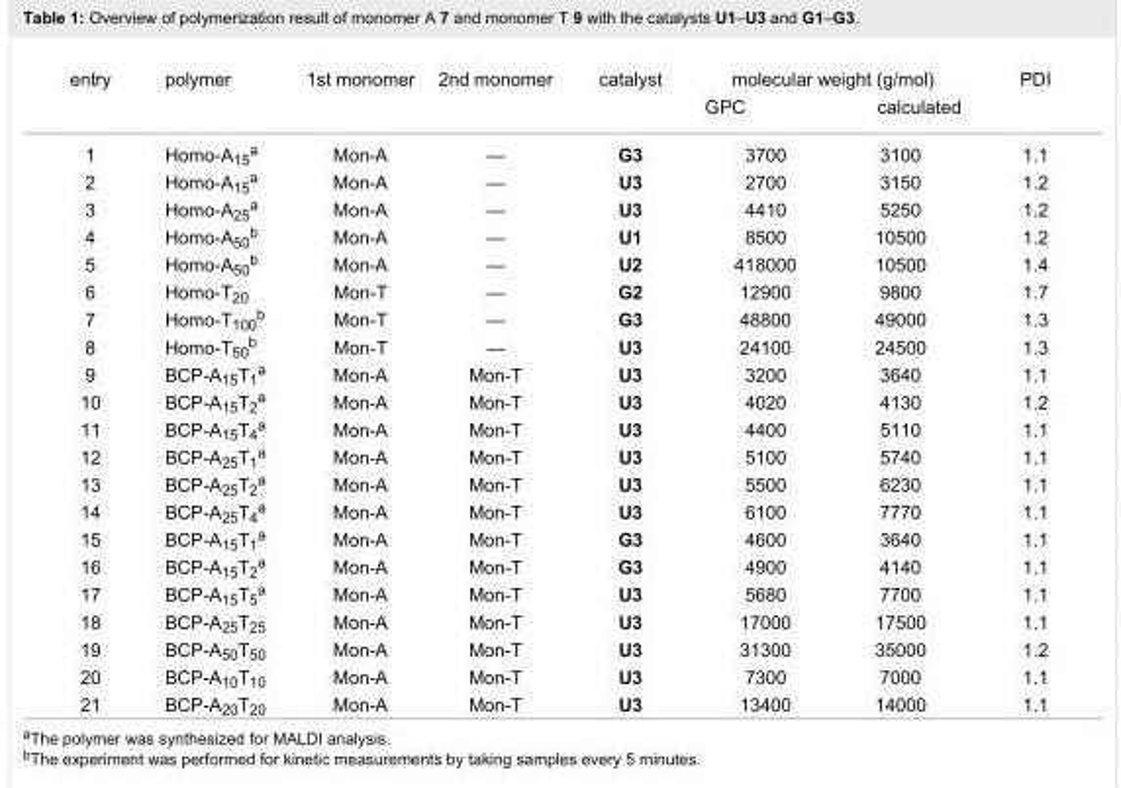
<table><tbody><tr><td rowspan="2">entry</td><td>polymer</td><td>1st monomer</td><td>2nd monomer</td><td>catalyst</td><td colspan="2">molecular weight (g/mol)</td><td>PDI</td></tr><tr><td></td><td></td><td></td><td></td><td>GPC</td><td>calculated</td><td></td></tr><tr><td>1</td><td>Homo-A<sub>15</sub><sup>a</sup></td><td>Mon-A</td><td>—</td><td>G3</td><td>3700</td><td>3100</td><td>1.1</td></tr><tr><td>2</td><td>Homo-A<sub>15</sub><sup>a</sup></td><td>Mon-A</td><td>—</td><td>U3</td><td>2700</td><td>3150</td><td>1.2</td></tr><tr><td>3</td><td>Homo-A<sub>25</sub><sup>a</sup></td><td>Mon-A</td><td>—</td><td>U3</td><td>4410</td><td>5250</td><td>1.2</td></tr><tr><td>4</td><td>Homo-A<sub>50</sub><sup>b</sup></td><td>Mon-A</td><td>—</td><td>U1</td><td>8500</td><td>10500</td><td>1.2</td></tr><tr><td>5</td><td>Homo-A<sub>50</sub><sup>b</sup></td><td>Mon-A</td><td>—</td><td>U2</td><td>418000</td><td>10500</td><td>1.4</td></tr><tr><td>6</td><td>Homo-T<sub>20</sub></td><td>Mon-T</td><td>—</td><td>G2</td><td>12900</td><td>9800</td><td>1.7</td></tr><tr><td>7</td><td>Homo-T<sub>100</sub><sup>b</sup></td><td>Mon-T</td><td>—</td><td>G3</td><td>48800</td><td>49000</td><td>1.3</td></tr><tr><td>8</td><td>Homo-T<sub>50</sub><sup>b</sup></td><td>Mon-T</td><td>—</td><td>U3</td><td>24100</td><td>24500</td><td>1.3</td></tr><tr><td>9</td><td>BCP-A<sub>15</sub>T<sub>1</sub><sup>a</sup></td><td>Mon-A</td><td>Mon-T</td><td>U3</td><td>3200</td><td>3640</td><td>1.1</td></tr><tr><td>10</td><td>BCP-A<sub>15</sub>T<sub>2</sub><sup>a</sup></td><td>Mon-A</td><td>Mon-T</td><td>U3</td><td>4020</td><td>4130</td><td>1.2</td></tr><tr><td>11</td><td>BCP-A<sub>15</sub>T<sub>4</sub><sup>a</sup></td><td>Mon-A</td><td>Mon-T</td><td>U3</td><td>4400</td><td>5110</td><td>1.1</td></tr><tr><td>12</td><td>BCP-A<sub>25</sub>T<sub>1</sub><sup>a</sup></td><td>Mon-A</td><td>Mon-T</td><td>U3</td><td>5100</td><td>5740</td><td>1.1</td></tr><tr><td>13</td><td>BCP-A<sub>25</sub>T<sub>2</sub><sup>a</sup></td><td>Mon-A</td><td>Mon-T</td><td>U3</td><td>5500</td><td>6230</td><td>1.1</td></tr><tr><td>14</td><td>BCP-A<sub>25</sub>T<sub>4</sub><sup>a</sup></td><td>Mon-A</td><td>Mon-T</td><td>U3</td><td>6100</td><td>7770</td><td>1.1</td></tr><tr><td>15</td><td>BCP-A<sub>15</sub>T<sub>1</sub><sup>a</sup></td><td>Mon-A</td><td>Mon-T</td><td>G3</td><td>4600</td><td>3640</td><td>1.1</td></tr><tr><td>16</td><td>BCP-A<sub>15</sub>T<sub>2</sub><sup>a</sup></td><td>Mon-A</td><td>Mon-T</td><td>G3</td><td>4900</td><td>4140</td><td>1.1</td></tr><tr><td>17</td><td>BCP-A<sub>15</sub>T<sub>5</sub><sup>a</sup></td><td>Mon-A</td><td>Mon-T</td><td>U3</td><td>5680</td><td>7700</td><td>1.1</td></tr><tr><td>18</td><td>BCP-A<sub>25</sub>T<sub>25</sub></td><td>Mon-A</td><td>Mon-T</td><td>U3</td><td>17000</td><td>17500</td><td>1.1</td></tr><tr><td>19</td><td>BCP-A<sub>50</sub>T<sub>50</sub></td><td>Mon-A</td><td>Mon-T</td><td>U3</td><td>31300</td><td>35000</td><td>1.2</td></tr><tr><td>20</td><td>BCP-A<sub>10</sub>T<sub>10</sub></td><td>Mon-A</td><td>Mon-T</td><td>U3</td><td>7300</td><td>7000</td><td>1.1</td></tr><tr><td>21</td><td>BCP-A<sub>20</sub>T<sub>20</sub></td><td>Mon-A</td><td>Mon-T</td><td>U3</td><td>13400</td><td>14000</td><td>1.1</td></tr></tbody></table>